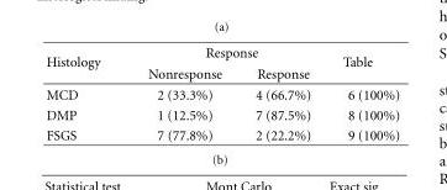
<table><thead><tr><td rowspan="2">Histology</td><td colspan="2">Response</td><td rowspan="2">Table</td></tr><tr><td>Nonresponse</td><td>Response</td></tr></thead><tbody><tr><td>MCD</td><td>2 (33.3%)</td><td>4 (66.7%)</td><td>6 (100%)</td></tr><tr><td>DMP</td><td>1 (12.5%)</td><td>7 (87.5%)</td><td>8 (100%)</td></tr><tr><td>FSGS</td><td>7 (77.8%)</td><td>2 (22.2%)</td><td>9 (100%)</td></tr></tbody></table>